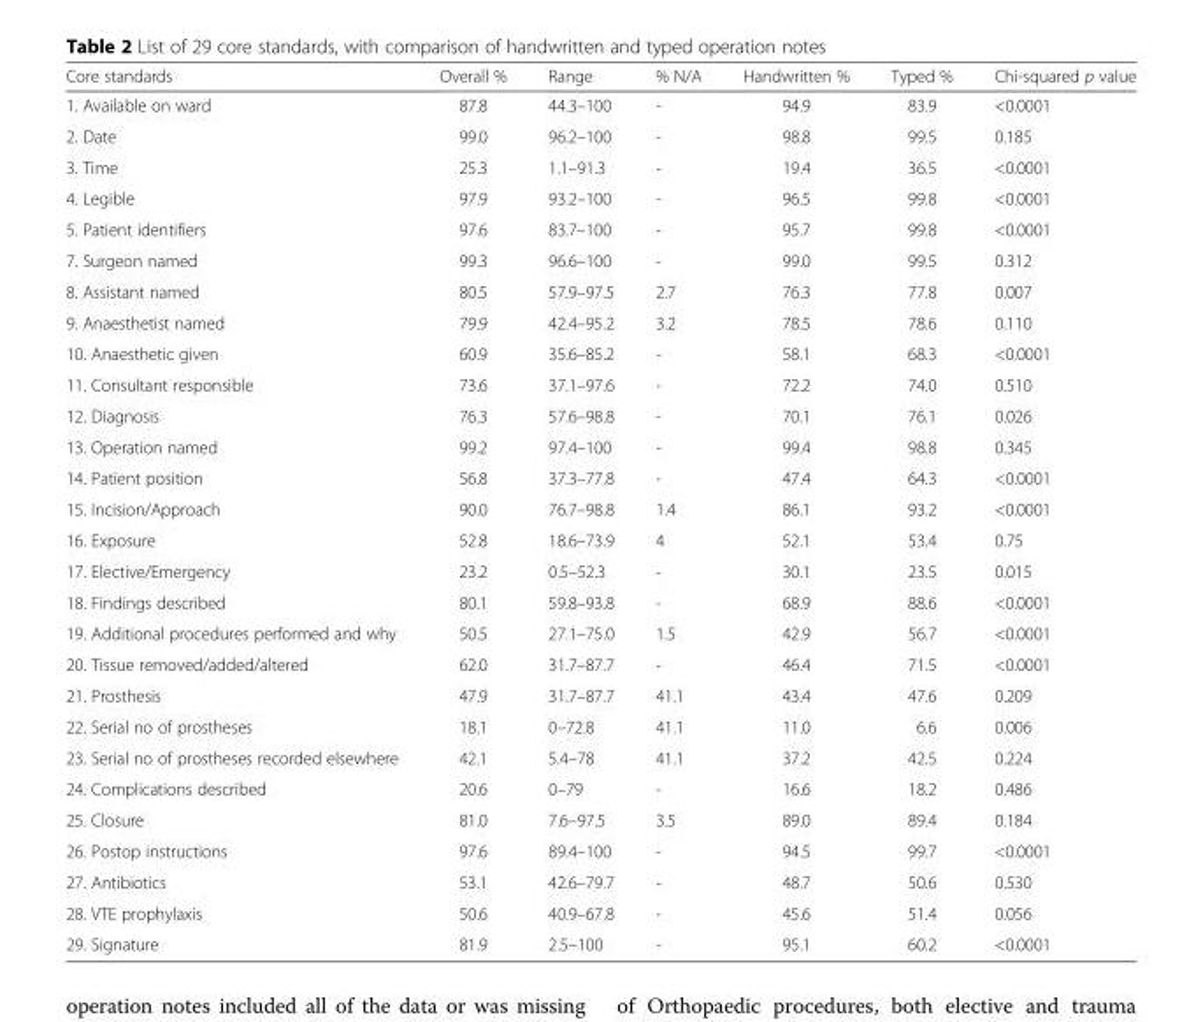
<table><thead><tr><td>Core standards</td><td>Overall %</td><td>Range</td><td>% N/A</td><td>Handwritten %</td><td>Typed %</td><td>Chi-squared p value</td></tr></thead><tbody><tr><td>1. Available on ward</td><td>87.8</td><td>44.3–100</td><td>-</td><td>94.9</td><td>83.9</td><td>&lt;0.0001</td></tr><tr><td>2. Date</td><td>99.0</td><td>96.2–100</td><td>-</td><td>98.8</td><td>99.5</td><td>0.185</td></tr><tr><td>3. Time</td><td>25.3</td><td>1.1–91.3</td><td>-</td><td>19.4</td><td>36.5</td><td>&lt;0.0001</td></tr><tr><td>4. Legible</td><td>97.9</td><td>93.2–100</td><td>-</td><td>96.5</td><td>99.8</td><td>&lt;0.0001</td></tr><tr><td>5. Patient identifiers</td><td>97.6</td><td>83.7–100</td><td>-</td><td>95.7</td><td>99.8</td><td>&lt;0.0001</td></tr><tr><td>7. Surgeon named</td><td>99.3</td><td>96.6–100</td><td>-</td><td>99.0</td><td>99.5</td><td>0.312</td></tr><tr><td>8. Assistant named</td><td>80.5</td><td>57.9–97.5</td><td>2.7</td><td>76.3</td><td>77.8</td><td>0.007</td></tr><tr><td>9. Anaesthetist named</td><td>79.9</td><td>42.4–95.2</td><td>3.2</td><td>78.5</td><td>78.6</td><td>0.110</td></tr><tr><td>10. Anaesthetic given</td><td>60.9</td><td>35.6–85.2</td><td>-</td><td>58.1</td><td>68.3</td><td>&lt;0.0001</td></tr><tr><td>11. Consultant responsible</td><td>73.6</td><td>37.1–97.6</td><td>-</td><td>72.2</td><td>74.0</td><td>0.510</td></tr><tr><td>12. Diagnosis</td><td>76.3</td><td>57.6–98.8</td><td>-</td><td>70.1</td><td>76.1</td><td>0.026</td></tr><tr><td>13. Operation named</td><td>99.2</td><td>97.4–100</td><td>-</td><td>99.4</td><td>98.8</td><td>0.345</td></tr><tr><td>14. Patient position</td><td>56.8</td><td>37.3–77.8</td><td>-</td><td>47.4</td><td>64.3</td><td>&lt;0.0001</td></tr><tr><td>15. Incision/Approach</td><td>90.0</td><td>76.7–98.8</td><td>1.4</td><td>86.1</td><td>93.2</td><td>&lt;0.0001</td></tr><tr><td>16. Exposure</td><td>52.8</td><td>18.6–73.9</td><td>4</td><td>52.1</td><td>53.4</td><td>0.75</td></tr><tr><td>17. Elective/Emergency</td><td>23.2</td><td>0.5–52.3</td><td>-</td><td>30.1</td><td>23.5</td><td>0.015</td></tr><tr><td>18. Findings described</td><td>80.1</td><td>59.8–93.8</td><td>-</td><td>68.9</td><td>88.6</td><td>&lt;0.0001</td></tr><tr><td>19. Additional procedures performed and why</td><td>50.5</td><td>27.1–75.0</td><td>1.5</td><td>42.9</td><td>56.7</td><td>&lt;0.0001</td></tr><tr><td>20. Tissue removed/added/altered</td><td>62.0</td><td>31.7–87.7</td><td>-</td><td>46.4</td><td>71.5</td><td>&lt;0.0001</td></tr><tr><td>21. Prosthesis</td><td>47.9</td><td>31.7–87.7</td><td>41.1</td><td>43.4</td><td>47.6</td><td>0.209</td></tr><tr><td>22. Serial no of prostheses</td><td>18.1</td><td>0–72.8</td><td>41.1</td><td>11.0</td><td>6.6</td><td>0.006</td></tr><tr><td>23. Serial no of prostheses recorded elsewhere</td><td>42.1</td><td>5.4–78</td><td>41.1</td><td>37.2</td><td>42.5</td><td>0.224</td></tr><tr><td>24. Complications described</td><td>20.6</td><td>0–79</td><td>-</td><td>16.6</td><td>18.2</td><td>0.486</td></tr><tr><td>25. Closure</td><td>81.0</td><td>7.6–97.5</td><td>3.5</td><td>89.0</td><td>89.4</td><td>0.184</td></tr><tr><td>26. Postop instructions</td><td>97.6</td><td>89.4–100</td><td>-</td><td>94.5</td><td>99.7</td><td>&lt;0.0001</td></tr><tr><td>27. Antibiotics</td><td>53.1</td><td>42.6–79.7</td><td>-</td><td>48.7</td><td>50.6</td><td>0.530</td></tr><tr><td>28. VTE prophylaxis</td><td>50.6</td><td>40.9–67.8</td><td>-</td><td>45.6</td><td>51.4</td><td>0.056</td></tr><tr><td>29. Signature</td><td>81.9</td><td>2.5–100</td><td>-</td><td>95.1</td><td>60.2</td><td>&lt;0.0001</td></tr></tbody></table>